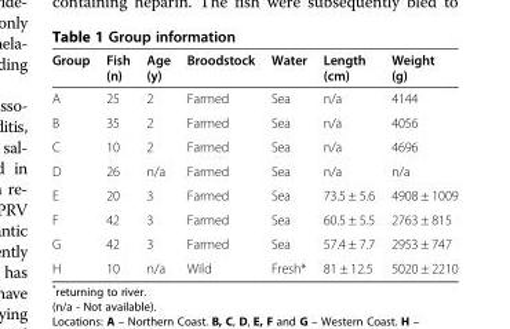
<table><thead><tr><td>Group</td><td>Fish (n)</td><td>Age (y)</td><td>Broodstock</td><td>Water</td><td>Length (cm)</td><td>Weight (g)</td></tr></thead><tbody><tr><td>A</td><td>25</td><td>2</td><td>Farmed</td><td>Sea</td><td>n/a</td><td>4144</td></tr><tr><td>B</td><td>35</td><td>2</td><td>Farmed</td><td>Sea</td><td>n/a</td><td>4056</td></tr><tr><td>C</td><td>10</td><td>2</td><td>Farmed</td><td>Sea</td><td>n/a</td><td>4696</td></tr><tr><td>D</td><td>26</td><td>n/a</td><td>Farmed</td><td>Sea</td><td>n/a</td><td>n/a</td></tr><tr><td>E</td><td>20</td><td>3</td><td>Farmed</td><td>Sea</td><td>73.5 ± 5.6</td><td>4908 ± 1009</td></tr><tr><td>F</td><td>42</td><td>3</td><td>Farmed</td><td>Sea</td><td>60.5 ± 5.5</td><td>2763 ± 815</td></tr><tr><td>G</td><td>42</td><td>3</td><td>Farmed</td><td>Sea</td><td>57.4 ± 7.7</td><td>2953 ± 747</td></tr><tr><td>H</td><td>10</td><td>n/a</td><td>Wild</td><td>Fresh*</td><td>81 ± 12.5</td><td>5020 ± 2210</td></tr></tbody></table>